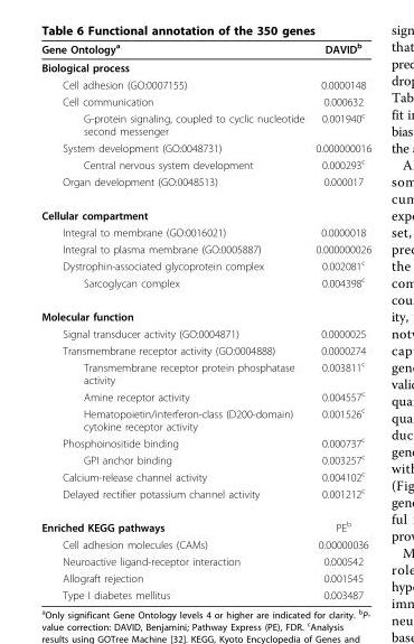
<table><thead><tr><td>Gene Ontology<sup>a</sup></td><td>DAVID<sup>b</sup></td></tr></thead><tbody><tr><td colspan="2">Biological process</td></tr><tr><td>Cell adhesion (GO:0007155)</td><td>0.0000148</td></tr><tr><td>Cell communication</td><td>0.000632</td></tr><tr><td>G-protein signaling, coupled to cyclic nucleotide second messenger</td><td>0.001940<sup>c</sup></td></tr><tr><td>System development (GO:0048731)</td><td>0.000000016</td></tr><tr><td>Central nervous system development</td><td>0.000293<sup>c</sup></td></tr><tr><td>Organ development (GO:0048513)</td><td>0.000017</td></tr><tr><td colspan="2">Cellular compartment</td></tr><tr><td>Integral to membrane (GO:0016021)</td><td>0.0000018</td></tr><tr><td>Integral to plasma membrane (GO:0005887)</td><td>0.000000026</td></tr><tr><td>Dystrophin-associated glycoprotein complex</td><td>0.002081<sup>c</sup></td></tr><tr><td>Sarcoglycan complex</td><td>0.004398<sup>c</sup></td></tr><tr><td colspan="2">Molecular function</td></tr><tr><td>Signal transducer activity (GO:0004871)</td><td>0.0000025</td></tr><tr><td>Transmembrane receptor activity (GO:0004888)</td><td>0.0000274</td></tr><tr><td>Transmembrane receptor protein phosphatase activity</td><td>0.003811<sup>c</sup></td></tr><tr><td>Amine receptor activity</td><td>0.004557<sup>c</sup></td></tr><tr><td>Hematopoietin/interferon-class (D200-domain) cytokine receptor activity</td><td>0.001526<sup>c</sup></td></tr><tr><td>Phosphoinositide binding</td><td>0.000737<sup>c</sup></td></tr><tr><td>GPI anchor binding</td><td>0.003257<sup>c</sup></td></tr><tr><td>Calcium-release channel activity</td><td>0.004102<sup>c</sup></td></tr><tr><td>Delayed rectifier potassium channel activity</td><td>0.001212<sup>c</sup></td></tr><tr><td>Enriched KEGG pathways</td><td>PE<sup>b</sup></td></tr><tr><td>Cell adhesion molecules (CAMs)</td><td>0.00000036</td></tr><tr><td>Neuroactive ligand-receptor interaction</td><td>0.000542</td></tr><tr><td>Allograft rejection</td><td>0.001545</td></tr><tr><td>Type I diabetes mellitus</td><td>0.003487</td></tr></tbody></table>